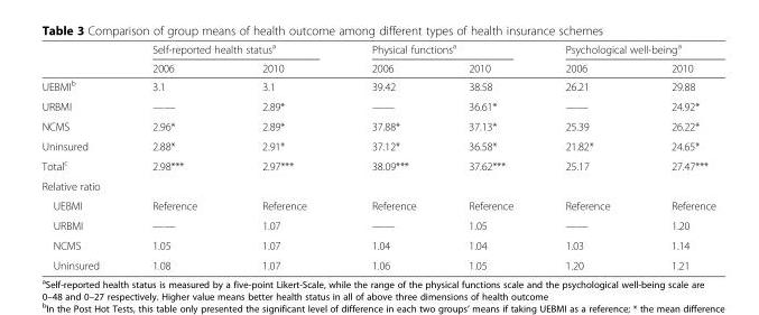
<table><thead><tr><td rowspan="2"></td><td colspan="2">Self-reported health status<sup>a</sup></td><td colspan="2">Physical functions<sup>a</sup></td><td colspan="2">Psychological well-being<sup>a</sup></td></tr><tr><td>2006</td><td>2010</td><td>2006</td><td>2010</td><td>2006</td><td>2010</td></tr></thead><tbody><tr><td>UEBMI<sup>b</sup></td><td>3.1</td><td>3.1</td><td>39.42</td><td>38.58</td><td>26.21</td><td>29.88</td></tr><tr><td>URBMI</td><td>——</td><td>2.89*</td><td>——</td><td>36.61*</td><td>——</td><td>24.92*</td></tr><tr><td>NCMS</td><td>2.96*</td><td>2.89*</td><td>37.88*</td><td>37.13*</td><td>25.39</td><td>26.22*</td></tr><tr><td>Uninsured</td><td>2.88*</td><td>2.91*</td><td>37.12*</td><td>36.58*</td><td>21.82*</td><td>24.65*</td></tr><tr><td>Total<sup>c</sup></td><td>2.98***</td><td>2.97***</td><td>38.09***</td><td>37.62***</td><td>25.17</td><td>27.47***</td></tr><tr><td colspan="7">Relative ratio</td></tr><tr><td>UEBMI</td><td>Reference</td><td>Reference</td><td>Reference</td><td>Reference</td><td>Reference</td><td>Reference</td></tr><tr><td>URBMI</td><td>——</td><td>1.07</td><td>——</td><td>1.05</td><td>——</td><td>1.20</td></tr><tr><td>NCMS</td><td>1.05</td><td>1.07</td><td>1.04</td><td>1.04</td><td>1.03</td><td>1.14</td></tr><tr><td>Uninsured</td><td>1.08</td><td>1.07</td><td>1.06</td><td>1.05</td><td>1.20</td><td>1.21</td></tr></tbody></table>